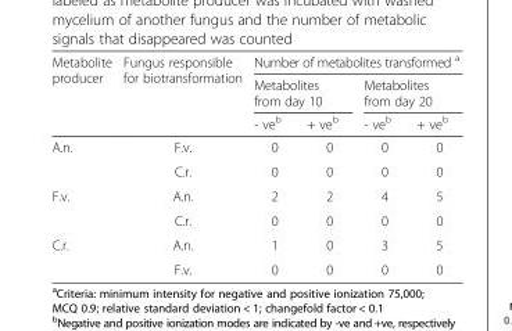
<table><thead><tr><td rowspan="3">Metabolite producer</td><td rowspan="3">Fungus responsible for biotransformation</td><td colspan="4">Number of metabolites transformed <sup>a</sup></td></tr><tr><td colspan="2">Metabolites from day 10</td><td colspan="2">Metabolites from day 20</td></tr><tr><td>- ve<sup>b</sup></td><td>+ ve<sup>b</sup></td><td>- ve<sup>b</sup></td><td>+ ve<sup>b</sup></td></tr></thead><tbody><tr><td rowspan="2">A.n.</td><td>F.v.</td><td>0</td><td>0</td><td>0</td><td>0</td></tr><tr><td>C.r.</td><td>0</td><td>0</td><td>0</td><td>0</td></tr><tr><td rowspan="2">F.v.</td><td>A.n.</td><td>2</td><td>2</td><td>4</td><td>5</td></tr><tr><td>C.r.</td><td>0</td><td>0</td><td>0</td><td>0</td></tr><tr><td rowspan="2">C.r.</td><td>A.n.</td><td>1</td><td>0</td><td>3</td><td>5</td></tr><tr><td>F.v.</td><td>0</td><td>0</td><td>0</td><td>0</td></tr></tbody></table>